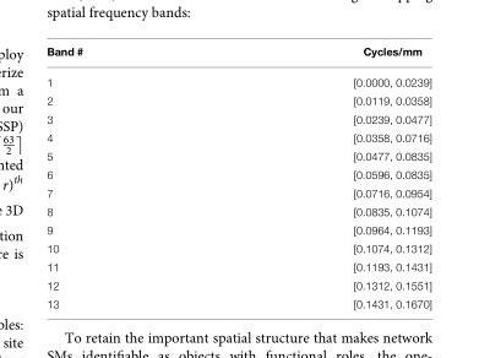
<table><thead><tr><td>Band #</td><td>Cycles/mm</td></tr></thead><tbody><tr><td>1</td><td>[0.0000, 0.0239]</td></tr><tr><td>2</td><td>[0.0119, 0.0358]</td></tr><tr><td>3</td><td>[0.0239, 0.0477]</td></tr><tr><td>4</td><td>[0.0358, 0.0716]</td></tr><tr><td>5</td><td>[0.0477, 0.0835]</td></tr><tr><td>6</td><td>[0.0596, 0.0835]</td></tr><tr><td>7</td><td>[0.0716, 0.0954]</td></tr><tr><td>8</td><td>[0.0835, 0.1074]</td></tr><tr><td>9</td><td>[0.0964, 0.1193]</td></tr><tr><td>10</td><td>[0.1074, 0.1312]</td></tr><tr><td>11</td><td>[0.1193, 0.1431]</td></tr><tr><td>12</td><td>[0.1312, 0.1551]</td></tr><tr><td>13</td><td>[0.1431, 0.1670]</td></tr></tbody></table>